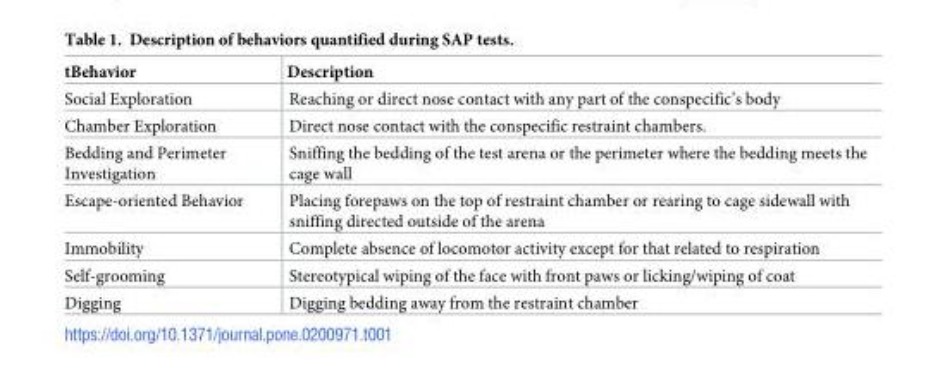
<table><thead><tr><td>tBehavior</td><td>Description</td></tr></thead><tbody><tr><td>Social Exploration</td><td>Reaching or direct nose contact with any part of the conspecific’s body</td></tr><tr><td>Chamber Exploration</td><td>Direct nose contact with the conspecific restraint chambers.</td></tr><tr><td>Bedding and Perimeter Investigation</td><td>Sniffing the bedding of the test arena or the perimeter where the bedding meets the cage wall</td></tr><tr><td>Escape-oriented Behavior</td><td>Placing forepaws on the top of restraint chamber or rearing to cage sidewall with sniffing directed outside of the arena</td></tr><tr><td>Immobility</td><td>Complete absence of locomotor activity except for that related to respiration</td></tr><tr><td>Self-grooming</td><td>Stereotypical wiping of the face with front paws or licking/wiping of coat</td></tr><tr><td>Digging</td><td>Digging bedding away from the restraint chamber</td></tr></tbody></table>